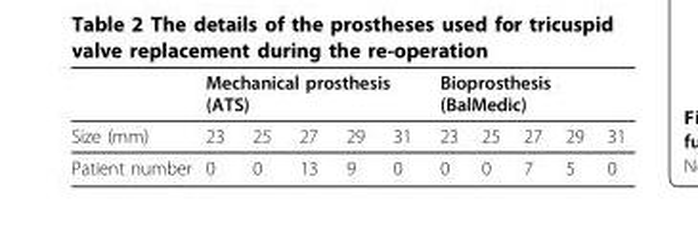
<table><thead><tr><td rowspan="2">Size (mm)</td><td colspan="5">Mechanical prosthesis (ATS)</td><td colspan="5">Bioprosthesis (BalMedic)</td></tr><tr><td>23</td><td>25</td><td>27</td><td>29</td><td>31</td><td>23</td><td>25</td><td>27</td><td>29</td><td>31</td></tr></thead><tbody><tr><td>Patient number</td><td>0</td><td>0</td><td>13</td><td>9</td><td>0</td><td>0</td><td>0</td><td>7</td><td>5</td><td>0</td></tr></tbody></table>